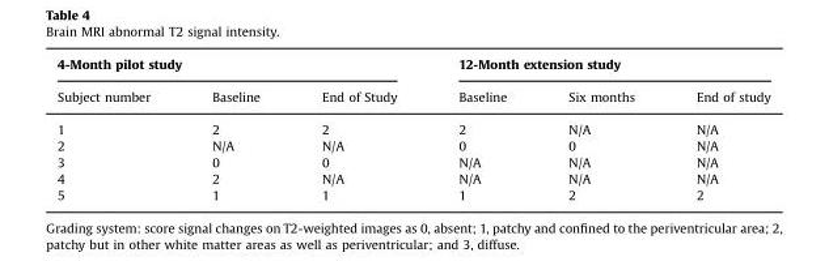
<table><thead><tr><td colspan="3">4-Month pilot study</td><td colspan="3">12-Month extension study</td></tr><tr><td>Subject number</td><td>Baseline</td><td>End of Study</td><td>Baseline</td><td>Six months</td><td>End of study</td></tr></thead><tbody><tr><td>1</td><td>2</td><td>2</td><td>2</td><td>N/A</td><td>N/A</td></tr><tr><td>2</td><td>N/A</td><td>N/A</td><td>0</td><td>0</td><td>N/A</td></tr><tr><td>3</td><td>0</td><td>0</td><td>N/A</td><td>N/A</td><td>N/A</td></tr><tr><td>4</td><td>2</td><td>N/A</td><td>N/A</td><td>N/A</td><td>N/A</td></tr><tr><td>5</td><td>1</td><td>1</td><td>1</td><td>2</td><td>2</td></tr></tbody></table>